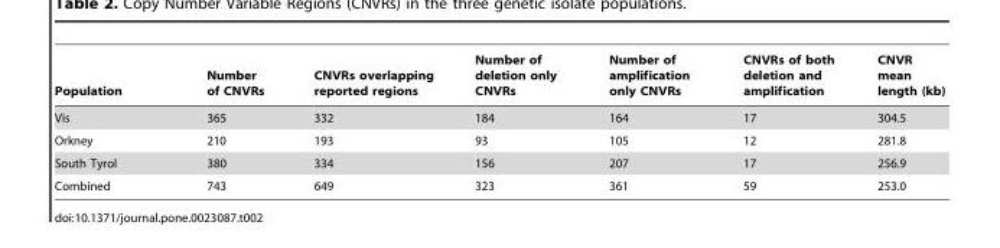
<table><thead><tr><td>Population</td><td>Number of CNVRs</td><td>CNVRs overlapping reported regions</td><td>Number of deletion only CNVRs</td><td>Number of amplification only CNVRs</td><td>CNVRs of both deletion and amplification</td><td>CNVR mean length (kb)</td></tr></thead><tbody><tr><td>Vis</td><td>365</td><td>332</td><td>184</td><td>164</td><td>17</td><td>304.5</td></tr><tr><td>Orkney</td><td>210</td><td>193</td><td>93</td><td>105</td><td>12</td><td>281.8</td></tr><tr><td>South Tyrol</td><td>380</td><td>334</td><td>156</td><td>207</td><td>17</td><td>256.9</td></tr><tr><td>Combined</td><td>743</td><td>649</td><td>323</td><td>361</td><td>59</td><td>253.0</td></tr></tbody></table>